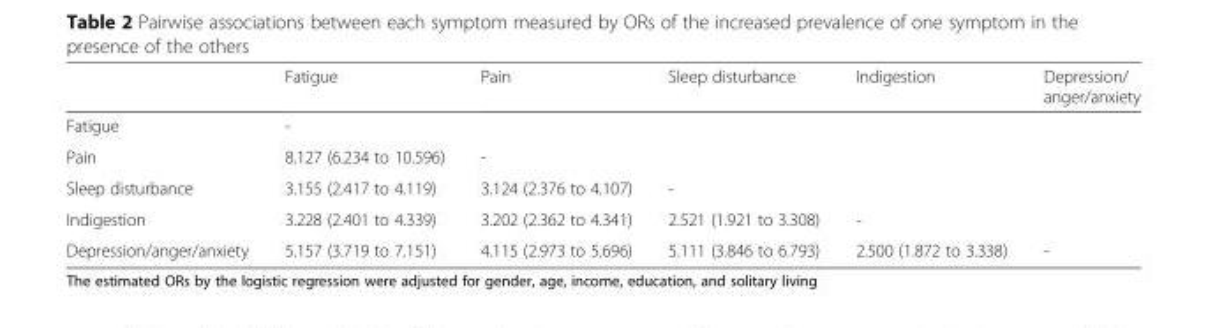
<table><thead><tr><td></td><td>Fatigue</td><td>Pain</td><td>Sleep disturbance</td><td>Indigestion</td><td>Depression/ anger/anxiety</td></tr></thead><tbody><tr><td>Fatigue</td><td>-</td><td></td><td></td><td></td><td></td></tr><tr><td>Pain</td><td>8.127 (6.234 to 10.596)</td><td>-</td><td></td><td></td><td></td></tr><tr><td>Sleep disturbance</td><td>3.155 (2.417 to 4.119)</td><td>3.124 (2.376 to 4.107)</td><td>-</td><td></td><td></td></tr><tr><td>Indigestion</td><td>3.228 (2.401 to 4.339)</td><td>3.202 (2.362 to 4.341)</td><td>2.521 (1.921 to 3.308)</td><td>-</td><td></td></tr><tr><td>Depression/anger/anxiety</td><td>5.157 (3.719 to 7.151)</td><td>4.115 (2.973 to 5.696)</td><td>5.111 (3.846 to 6.793)</td><td>2.500 (1.872 to 3.338)</td><td>-</td></tr></tbody></table>